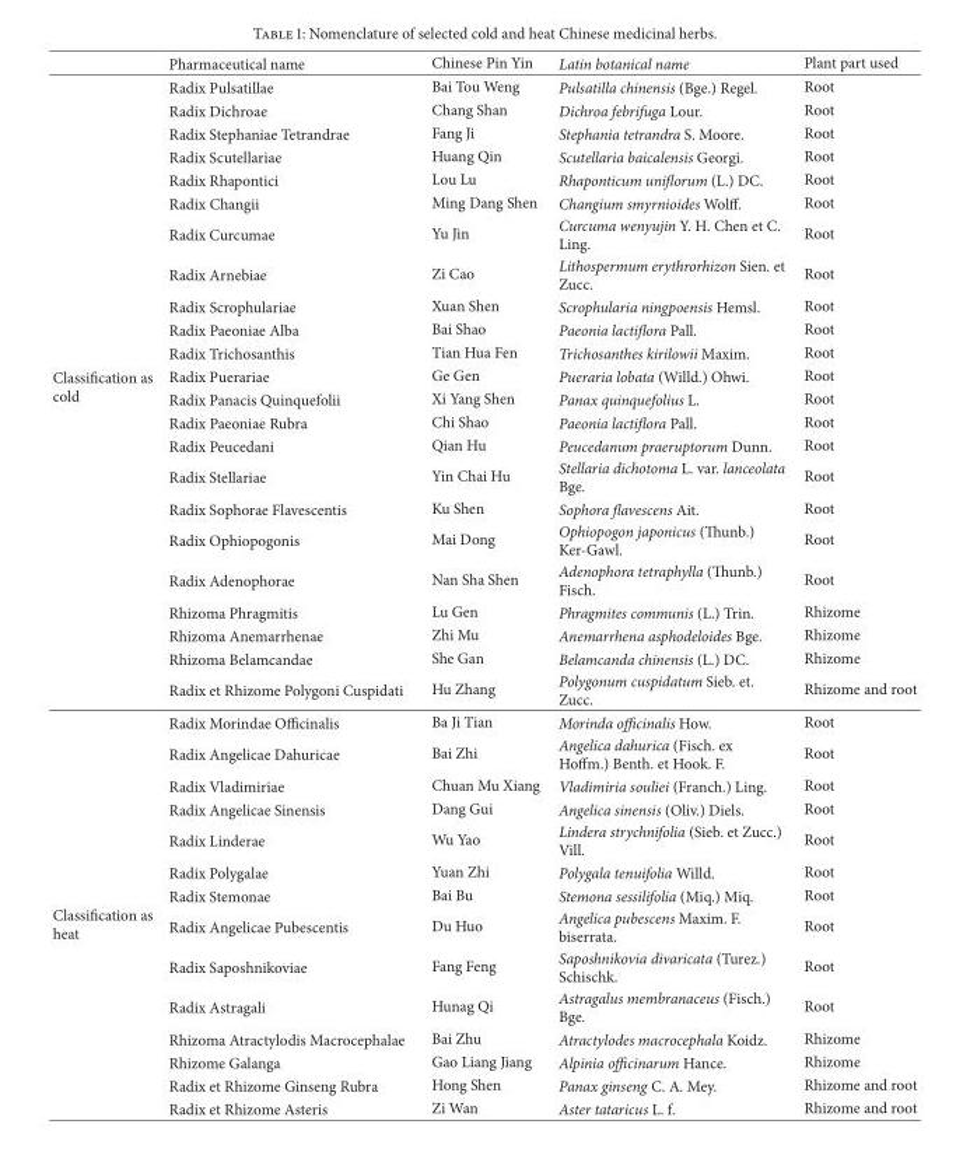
<table><thead><tr><td></td><td>Pharmaceutical name</td><td>Chinese Pin Yin</td><td>Latin botanical name</td><td>Plant part used</td></tr></thead><tbody><tr><td rowspan="23">Classification as cold</td><td>Radix Pulsatillae</td><td>Bai Tou Weng</td><td>Pulsatilla chinensis (Bge.) Regel.</td><td>Root</td></tr><tr><td>Radix Dichroae</td><td>Chang Shan</td><td>Dichroa febrifuga Lour.</td><td>Root</td></tr><tr><td>Radix Stephaniae Tetrandrae</td><td>Fang Ji</td><td>Stephania tetrandra S. Moore.</td><td>Root</td></tr><tr><td>Radix Scutellariae</td><td>Huang Qin</td><td>Scutellaria baicalensis Georgi.</td><td>Root</td></tr><tr><td>Radix Rhapontici</td><td>Lou Lu</td><td>Rhaponticum uniflorum (L.) DC.</td><td>Root</td></tr><tr><td>Radix Changii</td><td>Ming Dang Shen</td><td>Changium smyrnioides Wolff.</td><td>Root</td></tr><tr><td>Radix Curcumae</td><td>Yu Jin</td><td>Curcuma wenyujin Y. H. Chen et C. Ling.</td><td>Root</td></tr><tr><td>Radix Arnebiae</td><td>Zi Cao</td><td>Lithospermum erythrorhizon Sien. et Zucc.</td><td>Root</td></tr><tr><td>Radix Scrophulariae</td><td>Xuan Shen</td><td>Scrophularia ningpoensis Hemsl.</td><td>Root</td></tr><tr><td>Radix Paeoniae Alba</td><td>Bai Shao</td><td>Paeonia lactiflora Pall.</td><td>Root</td></tr><tr><td>Radix Trichosanthis</td><td>Tian Hua Fen</td><td>Trichosanthes kirilowii Maxim.</td><td>Root</td></tr><tr><td>Radix Puerariae</td><td>Ge Gen</td><td>Pueraria lobata (Willd.) Ohwi.</td><td>Root</td></tr><tr><td>Radix Panacis Quinquefolii</td><td>Xi Yang Shen</td><td>Panax quinquefolius L.</td><td>Root</td></tr><tr><td>Radix Paeoniae Rubra</td><td>Chi Shao</td><td>Paeonia lactiflora Pall.</td><td>Root</td></tr><tr><td>Radix Peucedani</td><td>Qian Hu</td><td>Peucedanum praeruptorum Dunn.</td><td>Root</td></tr><tr><td>Radix Stellariae</td><td>Yin Chai Hu</td><td>Stellaria dichotoma L. var. lanceolata Bge.</td><td>Root</td></tr><tr><td>Radix Sophorae Flavescentis</td><td>Ku Shen</td><td>Sophora flavescens Ait.</td><td>Root</td></tr><tr><td>Radix Ophiopogonis</td><td>Mai Dong</td><td>Ophiopogon japonicus (Thunb.) Ker-Gawl.</td><td>Root</td></tr><tr><td>Radix Adenophorae</td><td>Nan Sha Shen</td><td>Adenophora tetraphylla (Thunb.) Fisch.</td><td>Root</td></tr><tr><td>Rhizoma Phragmitis</td><td>Lu Gen</td><td>Phragmites communis (L.) Trin.</td><td>Rhizome</td></tr><tr><td>Rhizoma Anemarrhenae</td><td>Zhi Mu</td><td>Anemarrhena asphodeloides Bge.</td><td>Rhizome</td></tr><tr><td>Rhizoma Belamcandae</td><td>She Gan</td><td>Belamcanda chinensis (L.) DC.</td><td>Rhizome</td></tr><tr><td>Radix et Rhizome Polygoni Cuspidati</td><td>Hu Zhang</td><td>Polygonum cuspidatum Sieb. et. Zucc.</td><td>Rhizome and root</td></tr><tr><td rowspan="14">Classification as heat</td><td>Radix Morindae Officinalis</td><td>Ba Ji Tian</td><td>Morinda officinalis How.</td><td>Root</td></tr><tr><td>Radix Angelicae Dahuricae</td><td>Bai Zhi</td><td>Angelica dahurica (Fisch. ex Hoffm.) Benth. et Hook. F.</td><td>Root</td></tr><tr><td>Radix Vladimiriae</td><td>Chuan Mu Xiang</td><td>Vladimiria souliei (Franch.) Ling.</td><td>Root</td></tr><tr><td>Radix Angelicae Sinensis</td><td>Dang Gui</td><td>Angelica sinensis (Oliv.) Diels.</td><td>Root</td></tr><tr><td>Radix Linderae</td><td>Wu Yao</td><td>Lindera strychnifolia (Sieb. et Zucc.) Vill.</td><td>Root</td></tr><tr><td>Radix Polygalae</td><td>Yuan Zhi</td><td>Polygala tenuifolia Willd.</td><td>Root</td></tr><tr><td>Radix Stemonae</td><td>Bai Bu</td><td>Stemona sessilifolia (Miq.) Miq.</td><td>Root</td></tr><tr><td>Radix Angelicae Pubescentis</td><td>Du Huo</td><td>Angelica pubescens Maxim. F. biserrata.</td><td>Root</td></tr><tr><td>Radix Saposhnikoviae</td><td>Fang Feng</td><td>Saposhnikovia divaricata (Turez.) Schischk.</td><td>Root</td></tr><tr><td>Radix Astragali</td><td>Hunag Qi</td><td>Astragalus membranaceus (Fisch.) Bge.</td><td>Root</td></tr><tr><td>Rhizoma Atractylodis Macrocephalae</td><td>Bai Zhu</td><td>Atractylodes macrocephala Koidz.</td><td>Rhizome</td></tr><tr><td>Rhizome Galanga</td><td>Gao Liang Jiang</td><td>Alpinia officinarum Hance.</td><td>Rhizome</td></tr><tr><td>Radix et Rhizome Ginseng Rubra</td><td>Hong Shen</td><td>Panax ginseng C. A. Mey.</td><td>Rhizome and root</td></tr><tr><td>Radix et Rhizome Asteris</td><td>Zi Wan</td><td>Aster tataricus L. f.</td><td>Rhizome and root</td></tr></tbody></table>